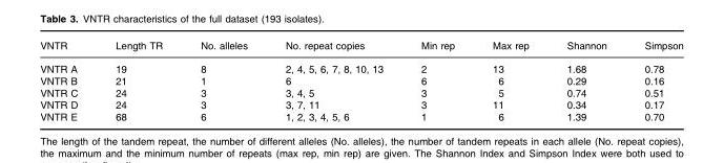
<table><thead><tr><td>VNTR</td><td>Length TR</td><td>No. alleles</td><td>No. repeat copies</td><td>Min rep</td><td>Max rep</td><td>Shannon</td><td>Simpson</td></tr></thead><tbody><tr><td>VNTR A</td><td>19</td><td>8</td><td>2, 4, 5, 6, 7, 8, 10, 13</td><td>2</td><td>13</td><td>1.68</td><td>0.78</td></tr><tr><td>VNTR B</td><td>21</td><td>1</td><td>6</td><td>6</td><td>6</td><td>0.29</td><td>0.16</td></tr><tr><td>VNTR C</td><td>24</td><td>3</td><td>3, 4, 5</td><td>3</td><td>5</td><td>0.74</td><td>0.51</td></tr><tr><td>VNTR D</td><td>24</td><td>3</td><td>3, 7, 11</td><td>3</td><td>11</td><td>0.34</td><td>0.17</td></tr><tr><td>VNTR E</td><td>68</td><td>6</td><td>1, 2, 3, 4, 5, 6</td><td>1</td><td>6</td><td>1.39</td><td>0.70</td></tr></tbody></table>